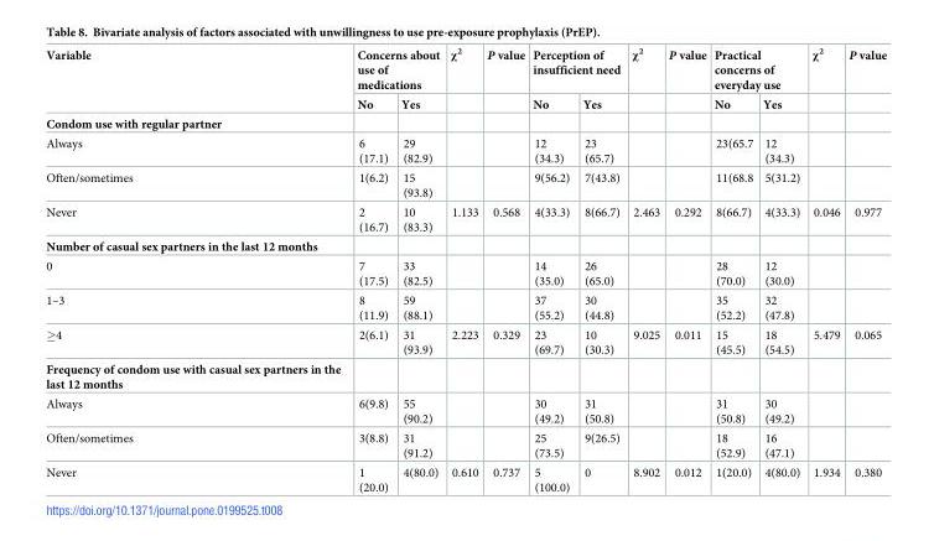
<table><thead><tr><td rowspan="2">Variable</td><td colspan="2">Concerns about use of medications</td><td rowspan="2">χ<sup>2</sup></td><td rowspan="2">P value</td><td colspan="2">Perception of insufficient need</td><td rowspan="2">χ<sup>2</sup></td><td rowspan="2">P value</td><td colspan="2">Practical concerns of everyday use</td><td rowspan="2">χ<sup>2</sup></td><td rowspan="2">P value</td></tr><tr><td>No</td><td>Yes</td><td>No</td><td>Yes</td><td>No</td><td>Yes</td></tr></thead><tbody><tr><td colspan="13">Condom use with regular partner</td></tr><tr><td>Always</td><td>6 (17.1)</td><td>29 (82.9)</td><td></td><td></td><td>12 (34.3)</td><td>23 (65.7)</td><td></td><td></td><td>23(65.7</td><td>12 (34.3)</td><td></td><td></td></tr><tr><td>Often/sometimes</td><td>1(6.2)</td><td>15 (93.8)</td><td></td><td></td><td>9(56.2)</td><td>7(43.8)</td><td></td><td></td><td>11(68.8</td><td>5(31.2)</td><td></td><td></td></tr><tr><td>Never</td><td>2 (16.7)</td><td>10 (83.3)</td><td>1.133</td><td>0.568</td><td>4(33.3)</td><td>8(66.7)</td><td>2.463</td><td>0.292</td><td>8(66.7)</td><td>4(33.3)</td><td>0.046</td><td>0.977</td></tr><tr><td colspan="13">Number of casual sex partners in the last 12 months</td></tr><tr><td>0</td><td>7 (17.5)</td><td>33 (82.5)</td><td></td><td></td><td>14 (35.0)</td><td>26 (65.0)</td><td></td><td></td><td>28 (70.0)</td><td>12 (30.0)</td><td></td><td></td></tr><tr><td>1–3</td><td>8 (11.9)</td><td>59 (88.1)</td><td></td><td></td><td>37 (55.2)</td><td>30 (44.8)</td><td></td><td></td><td>35 (52.2)</td><td>32 (47.8)</td><td></td><td></td></tr><tr><td>≥4</td><td>2(6.1)</td><td>31 (93.9)</td><td>2.223</td><td>0.329</td><td>23 (69.7)</td><td>10 (30.3)</td><td>9.025</td><td>0.011</td><td>15 (45.5)</td><td>18 (54.5)</td><td>5.479</td><td>0.065</td></tr><tr><td colspan="13">Frequency of condom use with casual sex partners in the last 12 months</td></tr><tr><td>Always</td><td>6(9.8)</td><td>55 (90.2)</td><td></td><td></td><td>30 (49.2)</td><td>31 (50.8)</td><td></td><td></td><td>31 (50.8)</td><td>30 (49.2)</td><td></td><td></td></tr><tr><td>Often/sometimes</td><td>3(8.8)</td><td>31 (91.2)</td><td></td><td></td><td>25 (73.5)</td><td>9(26.5)</td><td></td><td></td><td>18 (52.9)</td><td>16 (47.1)</td><td></td><td></td></tr><tr><td>Never</td><td>1 (20.0)</td><td>4(80.0)</td><td>0.610</td><td>0.737</td><td>5 (100.0)</td><td>0</td><td>8.902</td><td>0.012</td><td>1(20.0)</td><td>4(80.0)</td><td>1.934</td><td>0.380</td></tr></tbody></table>